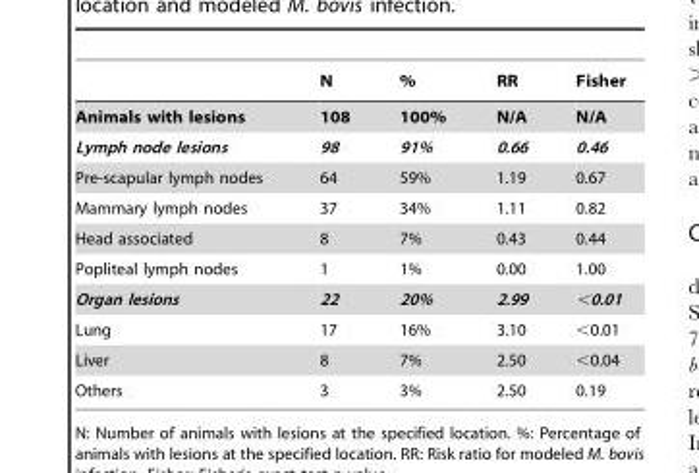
<table><thead><tr><td></td><td>N</td><td>%</td><td>RR</td><td>Fisher</td></tr></thead><tbody><tr><td>Animals with lesions</td><td>108</td><td>100%</td><td>N/A</td><td>N/A</td></tr><tr><td>Lymph node lesions</td><td>98</td><td>91%</td><td>0.66</td><td>0.46</td></tr><tr><td>Pre-scapular lymph nodes</td><td>64</td><td>59%</td><td>1.19</td><td>0.67</td></tr><tr><td>Mammary lymph nodes</td><td>37</td><td>34%</td><td>1.11</td><td>0.82</td></tr><tr><td>Head associated</td><td>8</td><td>7%</td><td>0.43</td><td>0.44</td></tr><tr><td>Popliteal lymph nodes</td><td>1</td><td>1%</td><td>0.00</td><td>1.00</td></tr><tr><td>Organ lesions</td><td>22</td><td>20%</td><td>2.99</td><td>&lt;0.01</td></tr><tr><td>Lung</td><td>17</td><td>16%</td><td>3.10</td><td>&lt;0.01</td></tr><tr><td>Liver</td><td>8</td><td>7%</td><td>2.50</td><td>&lt;0.04</td></tr><tr><td>Others</td><td>3</td><td>3%</td><td>2.50</td><td>0.19</td></tr></tbody></table>